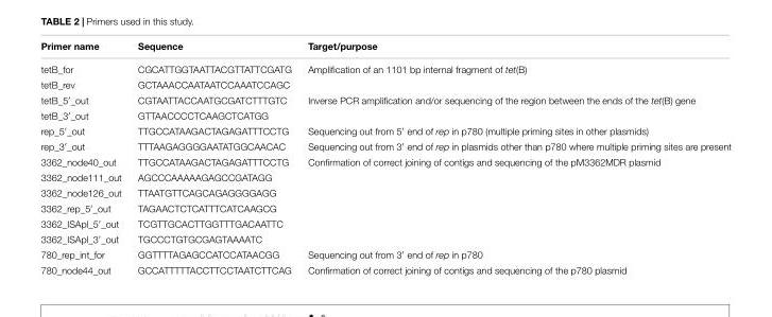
<table><thead><tr><td>Primer name</td><td>Sequence</td><td>Target/purpose</td></tr></thead><tbody><tr><td>tetB_for</td><td>CGCATTGGTAATTACGTTATTCGATG</td><td>Amplification of an 1101 bp internal fragment of tet(B)</td></tr><tr><td>tetB_rev</td><td>GCTAAACCAATAATCCAAATCCAGC</td><td></td></tr><tr><td>tetB_5′_out</td><td>CGTAATTACCAATGCGATCTTTGTC</td><td>Inverse PCR amplification and/or sequencing of the region between the ends of the tet(B) gene</td></tr><tr><td>tetB_3′_out</td><td>GTTAACCCCTCAAGCTCATGG</td><td></td></tr><tr><td>rep_5′_out</td><td>TTGCCATAAGACTAGAGATTTCCTG</td><td>Sequencing out from 5′ end of rep in p780 (multiple priming sites in other plasmids)</td></tr><tr><td>rep_3′_out</td><td>TTTAAGAGGGGAATATGGCAACAC</td><td>Sequencing out from 3′ end of rep in plasmids other than p780 where multiple priming sites are present</td></tr><tr><td>3362_node40_out</td><td>TTGCCATAAGACTAGAGATTTCCTG</td><td>Confirmation of correct joining of contigs and sequencing of the pM3362MDR plasmid</td></tr><tr><td>3362_node111_out</td><td>AGCCCAAAAAGAGCCGATAGG</td><td></td></tr><tr><td>3362_node126_out</td><td>TTAATGTTCAGCAGAGGGGAGG</td><td></td></tr><tr><td>3362_rep_5′_out</td><td>TAGAACTCTCATTTCATCAAGCG</td><td></td></tr><tr><td>3362_ISApl_5′_out</td><td>TCGTTGCACTTGGTTTGACAATTC</td><td></td></tr><tr><td>3362_ISApl_3′_out</td><td>TGCCCTGTGCGAGTAAAATC</td><td></td></tr><tr><td>780_rep_int_for</td><td>GGTTTTAGAGCCATCCATAACGG</td><td>Sequencing out from 3′ end of rep in p780</td></tr><tr><td>780_node44_out</td><td>GCCATTTTTACCTTCCTAATCTTCAG</td><td>Confirmation of correct joining of contigs and sequencing of the p780 plasmid</td></tr></tbody></table>